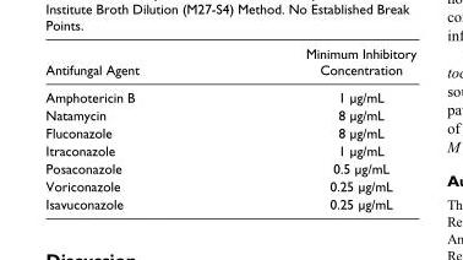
<table><thead><tr><td>Antifungal Agent</td><td>Minimum Inhibitory Concentration</td></tr></thead><tbody><tr><td>Amphotericin B</td><td>1 µg/mL</td></tr><tr><td>Natamycin</td><td>8 µg/mL</td></tr><tr><td>Fluconazole</td><td>8 µg/mL</td></tr><tr><td>Itraconazole</td><td>1 µg/mL</td></tr><tr><td>Posaconazole</td><td>0.5 µg/mL</td></tr><tr><td>Voriconazole</td><td>0.25 µg/mL</td></tr><tr><td>Isavuconazole</td><td>0.25 µg/mL</td></tr></tbody></table>